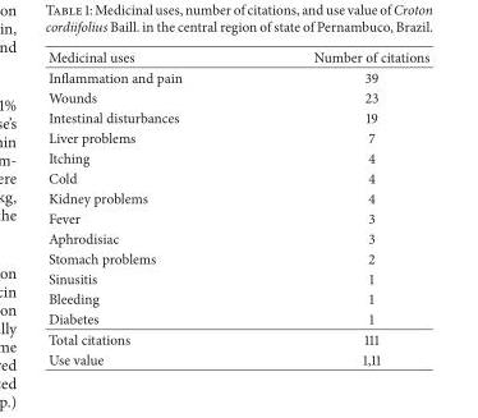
<table><thead><tr><td>Medicinal uses</td><td>Number of citations</td></tr></thead><tbody><tr><td>Inflammation and pain</td><td>39</td></tr><tr><td>Wounds</td><td>23</td></tr><tr><td>Intestinal disturbances</td><td>19</td></tr><tr><td>Liver problems</td><td>7</td></tr><tr><td>Itching</td><td>4</td></tr><tr><td>Cold</td><td>4</td></tr><tr><td>Kidney problems</td><td>4</td></tr><tr><td>Fever</td><td>3</td></tr><tr><td>Aphrodisiac</td><td>3</td></tr><tr><td>Stomach problems</td><td>2</td></tr><tr><td>Sinusitis</td><td>1</td></tr><tr><td>Bleeding</td><td>1</td></tr><tr><td>Diabetes</td><td>1</td></tr><tr><td>Total citations</td><td>111</td></tr><tr><td>Use value</td><td>1,11</td></tr></tbody></table>